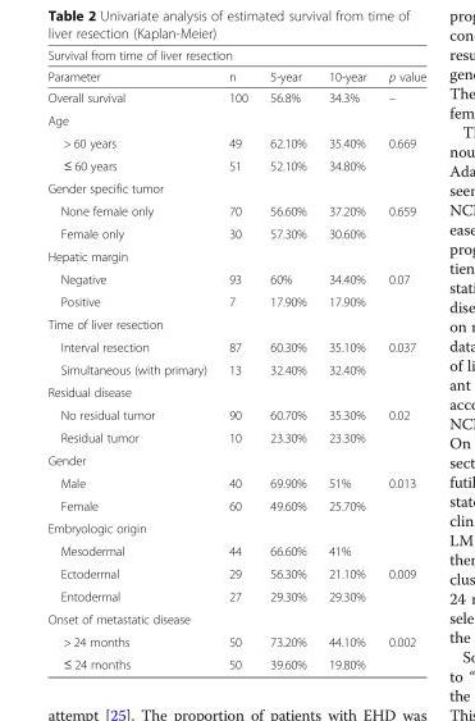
<table><thead><tr><td colspan="5">Survival from time of liver resection</td></tr><tr><td>Parameter</td><td>n</td><td>5-year</td><td>10-year</td><td>p value</td></tr></thead><tbody><tr><td>Overall survival</td><td>100</td><td>56.8%</td><td>34.3%</td><td>–</td></tr><tr><td colspan="5">Age</td></tr><tr><td>&gt; 60 years</td><td>49</td><td>62.10%</td><td>35.40%</td><td>0.669</td></tr><tr><td>≤ 60 years</td><td>51</td><td>52.10%</td><td>34.80%</td><td></td></tr><tr><td colspan="5">Gender specific tumor</td></tr><tr><td>None female only</td><td>70</td><td>56.60%</td><td>37.20%</td><td>0.659</td></tr><tr><td>Female only</td><td>30</td><td>57.30%</td><td>30.60%</td><td></td></tr><tr><td colspan="5">Hepatic margin</td></tr><tr><td>Negative</td><td>93</td><td>60%</td><td>34.40%</td><td>0.07</td></tr><tr><td>Positive</td><td>7</td><td>17.90%</td><td>17.90%</td><td></td></tr><tr><td colspan="5">Time of liver resection</td></tr><tr><td>Interval resection</td><td>87</td><td>60.30%</td><td>35.10%</td><td>0.037</td></tr><tr><td>Simultaneous (with primary)</td><td>13</td><td>32.40%</td><td>32.40%</td><td></td></tr><tr><td colspan="5">Residual disease</td></tr><tr><td>No residual tumor</td><td>90</td><td>60.70%</td><td>35.30%</td><td>0.02</td></tr><tr><td>Residual tumor</td><td>10</td><td>23.30%</td><td>23.30%</td><td></td></tr><tr><td colspan="5">Gender</td></tr><tr><td>Male</td><td>40</td><td>69.90%</td><td>51%</td><td>0.013</td></tr><tr><td>Female</td><td>60</td><td>49.60%</td><td>25.70%</td><td></td></tr><tr><td colspan="5">Embryologic origin</td></tr><tr><td>Mesodermal</td><td>44</td><td>66.60%</td><td>41%</td><td></td></tr><tr><td>Ectodermal</td><td>29</td><td>56.30%</td><td>21.10%</td><td>0.009</td></tr><tr><td>Entodermal</td><td>27</td><td>29.30%</td><td>29.30%</td><td></td></tr><tr><td colspan="5">Onset of metastatic disease</td></tr><tr><td>&gt; 24 months</td><td>50</td><td>73.20%</td><td>44.10%</td><td>0.002</td></tr><tr><td>≤ 24 months</td><td>50</td><td>39.60%</td><td>19.80%</td><td></td></tr></tbody></table>